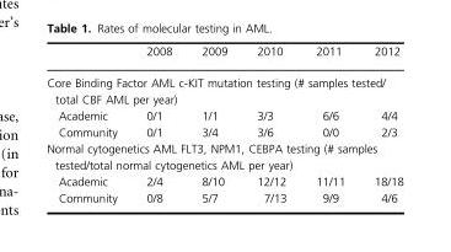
<table><thead><tr><td></td><td>2008</td><td>2009</td><td>2010</td><td>2011</td><td>2012</td></tr></thead><tbody><tr><td colspan="6">Core Binding Factor AML c-KIT mutation testing (# samples tested/ total CBF AML per year)</td></tr><tr><td>Academic</td><td>0/1</td><td>1/1</td><td>3/3</td><td>6/6</td><td>4/4</td></tr><tr><td>Community</td><td>0/1</td><td>3/4</td><td>3/6</td><td>0/0</td><td>2/3</td></tr><tr><td colspan="6">Normal cytogenetics AML FLT3, NPM1, CEBPA testing (# samples tested/total normal cytogenetics AML per year)</td></tr><tr><td>Academic</td><td>2/4</td><td>8/10</td><td>12/12</td><td>11/11</td><td>18/18</td></tr><tr><td>Community</td><td>0/8</td><td>5/7</td><td>7/13</td><td>9/9</td><td>4/6</td></tr></tbody></table>